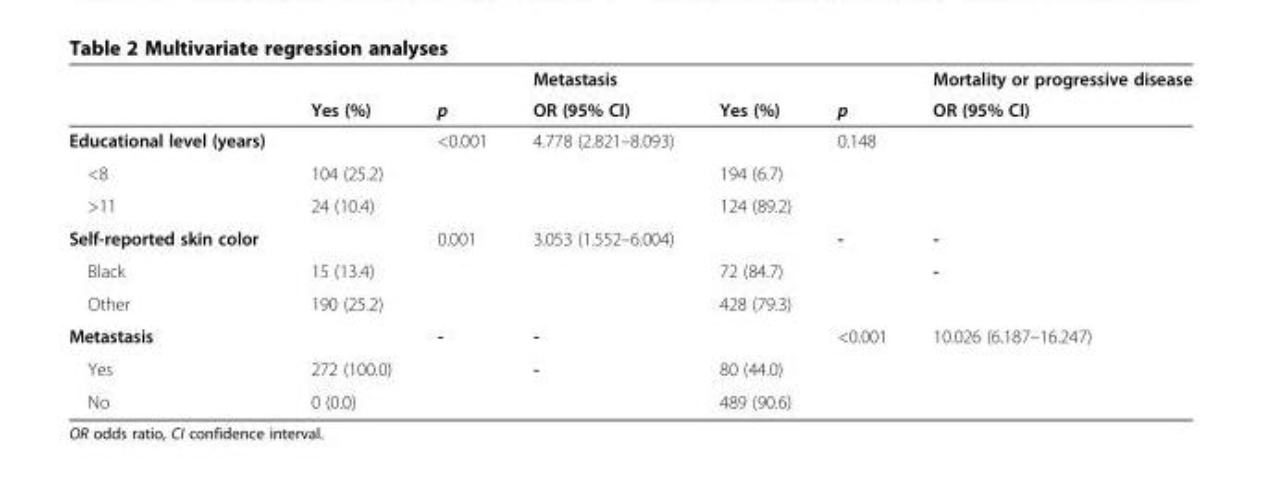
<table><thead><tr><td rowspan="2"></td><td rowspan="2">Yes (%)</td><td rowspan="2">p</td><td rowspan="2">Metastasis OR (95% CI)</td><td rowspan="2">Yes (%)</td><td rowspan="2">p</td><td rowspan="2">Mortality or progressive disease OR (95% CI)</td></tr><tr></tr></thead><tbody><tr><td>Educational level (years)</td><td></td><td>&lt;0.001</td><td>4.778 (2.821–8.093)</td><td></td><td>0.148</td><td></td></tr><tr><td>&lt;8</td><td>104 (25.2)</td><td></td><td></td><td>194 (6.7)</td><td></td><td></td></tr><tr><td>&gt;11</td><td>24 (10.4)</td><td></td><td></td><td>124 (89.2)</td><td></td><td></td></tr><tr><td>Self-reported skin color</td><td></td><td>0.001</td><td>3.053 (1.552–6.004)</td><td></td><td>-</td><td>-</td></tr><tr><td>Black</td><td>15 (13.4)</td><td></td><td></td><td>72 (84.7)</td><td></td><td>-</td></tr><tr><td>Other</td><td>190 (25.2)</td><td></td><td></td><td>428 (79.3)</td><td></td><td></td></tr><tr><td>Metastasis</td><td></td><td>-</td><td>-</td><td></td><td>&lt;0.001</td><td>10.026 (6.187–16.247)</td></tr><tr><td>Yes</td><td>272 (100.0)</td><td></td><td>-</td><td>80 (44.0)</td><td></td><td></td></tr><tr><td>No</td><td>0 (0.0)</td><td></td><td></td><td>489 (90.6)</td><td></td><td></td></tr></tbody></table>